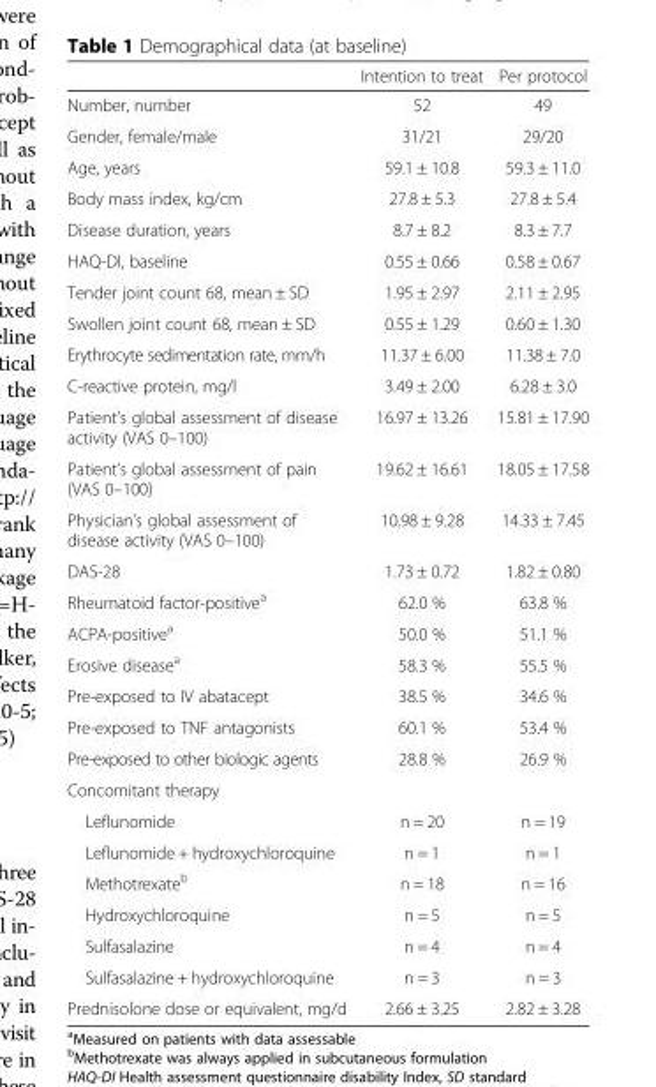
<table><thead><tr><td></td><td>Intention to treat</td><td>Per protocol</td></tr></thead><tbody><tr><td>Number, number</td><td>52</td><td>49</td></tr><tr><td>Gender, female/male</td><td>31/21</td><td>29/20</td></tr><tr><td>Age, years</td><td>59.1 ± 10.8</td><td>59.3 ± 11.0</td></tr><tr><td>Body mass index, kg/cm</td><td>27.8 ± 5.3</td><td>27.8 ± 5.4</td></tr><tr><td>Disease duration, years</td><td>8.7 ± 8.2</td><td>8.3 ± 7.7</td></tr><tr><td>HAQ-DI, baseline</td><td>0.55 ± 0.66</td><td>0.58 ± 0.67</td></tr><tr><td>Tender joint count 68, mean ± SD</td><td>1.95 ± 2.97</td><td>2.11 ± 2.95</td></tr><tr><td>Swollen joint count 68, mean ± SD</td><td>0.55 ± 1.29</td><td>0.60 ± 1.30</td></tr><tr><td>Erythrocyte sedimentation rate, mm/h</td><td>11.37 ± 6.00</td><td>11.38 ± 7.0</td></tr><tr><td>C-reactive protein, mg/l</td><td>3.49 ± 2.00</td><td>6.28 ± 3.0</td></tr><tr><td>Patient’s global assessment of disease activity (VAS 0–100)</td><td>16.97 ± 13.26</td><td>15.81 ± 17.90</td></tr><tr><td>Patient’s global assessment of pain (VAS 0–100)</td><td>19.62 ± 16.61</td><td>18.05 ± 17.58</td></tr><tr><td>Physician’s global assessment of disease activity (VAS 0–100)</td><td>10.98 ± 9.28</td><td>14.33 ± 7.45</td></tr><tr><td>DAS-28</td><td>1.73 ± 0.72</td><td>1.82 ± 0.80</td></tr><tr><td>Rheumatoid factor-positive<sup>a</sup></td><td>62.0 %</td><td>63.8 %</td></tr><tr><td>ACPA-positive<sup>a</sup></td><td>50.0 %</td><td>51.1 %</td></tr><tr><td>Erosive disease<sup>a</sup></td><td>58.3 %</td><td>55.5 %</td></tr><tr><td>Pre-exposed to IV abatacept</td><td>38.5 %</td><td>34.6 %</td></tr><tr><td>Pre-exposed to TNF antagonists</td><td>60.1 %</td><td>53.4 %</td></tr><tr><td>Pre-exposed to other biologic agents</td><td>28.8 %</td><td>26.9 %</td></tr><tr><td colspan="3">Concomitant therapy</td></tr><tr><td>Leflunomide</td><td>n = 20</td><td>n = 19</td></tr><tr><td>Leflunomide + hydroxychloroquine</td><td>n = 1</td><td>n = 1</td></tr><tr><td>Methotrexate<sup>b</sup></td><td>n = 18</td><td>n = 16</td></tr><tr><td>Hydroxychloroquine</td><td>n = 5</td><td>n = 5</td></tr><tr><td>Sulfasalazine</td><td>n = 4</td><td>n = 4</td></tr><tr><td>Sulfasalazine + hydroxychloroquine</td><td>n = 3</td><td>n = 3</td></tr><tr><td>Prednisolone dose or equivalent, mg/d</td><td>2.66 ± 3.25</td><td>2.82 ± 3.28</td></tr></tbody></table>